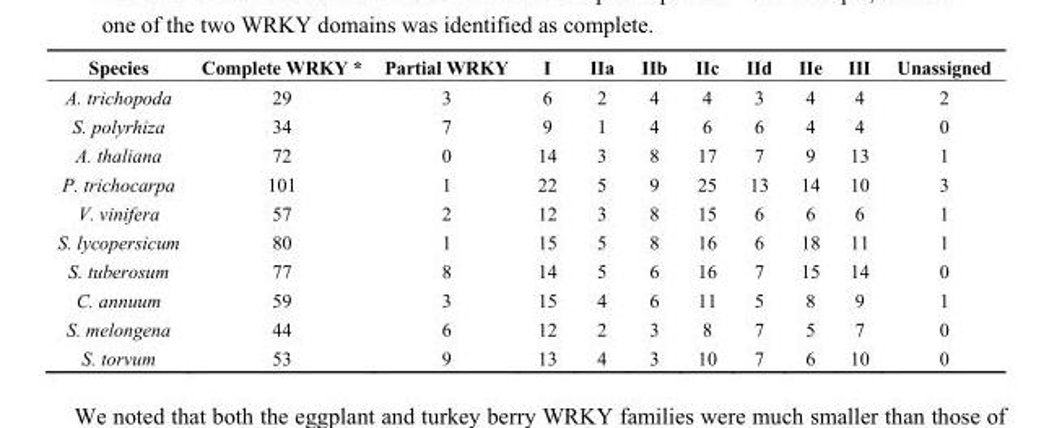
<table><thead><tr><td>Species</td><td>Complete WRKY *</td><td>Partial WRKY</td><td>I</td><td>IIa</td><td>IIb</td><td>IIc</td><td>IId</td><td>IIe</td><td>III</td><td>Unassigned</td></tr></thead><tbody><tr><td>A. trichopoda</td><td>29</td><td>3</td><td>6</td><td>2</td><td>4</td><td>4</td><td>3</td><td>4</td><td>4</td><td>2</td></tr><tr><td>S. polyrhiza</td><td>34</td><td>7</td><td>9</td><td>1</td><td>4</td><td>6</td><td>6</td><td>4</td><td>4</td><td>0</td></tr><tr><td>A. thaliana</td><td>72</td><td>0</td><td>14</td><td>3</td><td>8</td><td>17</td><td>7</td><td>9</td><td>13</td><td>1</td></tr><tr><td>P. trichocarpa</td><td>101</td><td>1</td><td>22</td><td>5</td><td>9</td><td>25</td><td>13</td><td>14</td><td>10</td><td>3</td></tr><tr><td>V. vinifera</td><td>57</td><td>2</td><td>12</td><td>3</td><td>8</td><td>15</td><td>6</td><td>6</td><td>6</td><td>1</td></tr><tr><td>S. lycopersicum</td><td>80</td><td>1</td><td>15</td><td>5</td><td>8</td><td>16</td><td>6</td><td>18</td><td>11</td><td>1</td></tr><tr><td>S. tuberosum</td><td>77</td><td>8</td><td>14</td><td>5</td><td>6</td><td>16</td><td>7</td><td>15</td><td>14</td><td>0</td></tr><tr><td>C. annuum</td><td>59</td><td>3</td><td>15</td><td>4</td><td>6</td><td>11</td><td>5</td><td>8</td><td>9</td><td>1</td></tr><tr><td>S. melongena</td><td>44</td><td>6</td><td>12</td><td>2</td><td>3</td><td>8</td><td>7</td><td>5</td><td>7</td><td>0</td></tr><tr><td>S. torvum</td><td>53</td><td>9</td><td>13</td><td>4</td><td>3</td><td>10</td><td>7</td><td>6</td><td>10</td><td>0</td></tr></tbody></table>